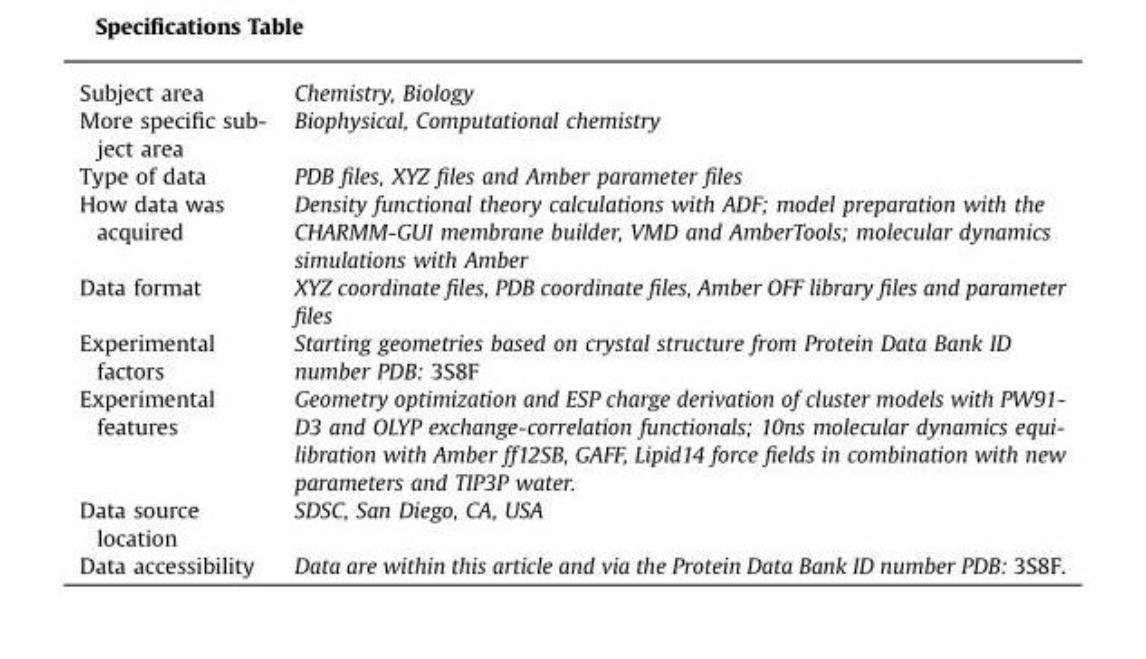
<table><tbody><tr><td>Subject area</td><td>Chemistry, Biology</td></tr><tr><td>More specific sub- ject area</td><td>Biophysical, Computational chemistry</td></tr><tr><td>Type of data</td><td>PDB files, XYZ files and Amber parameter files</td></tr><tr><td>How data was acquired</td><td>Density functional theory calculations with ADF; model preparation with the CHARMM-GUI membrane builder, VMD and AmberTools; molecular dynamics simulations with Amber</td></tr><tr><td>Data format</td><td>XYZ coordinate files, PDB coordinate files, Amber OFF library files and parameter files</td></tr><tr><td>Experimental factors</td><td>Starting geometries based on crystal structure from Protein Data Bank ID number PDB: 3S8F</td></tr><tr><td>Experimental features</td><td>Geometry optimization and ESP charge derivation of cluster models with PW91- D3 and OLYP exchange-correlation functionals; 10ns molecular dynamics equi- libration with Amber ff12SB, GAFF, Lipid14 force fields in combination with new parameters and TIP3P water.</td></tr><tr><td>Data source location</td><td>SDSC, San Diego, CA, USA</td></tr><tr><td>Data accessibility</td><td>Data are within this article and via the Protein Data Bank ID number PDB: 3S8F.</td></tr></tbody></table>